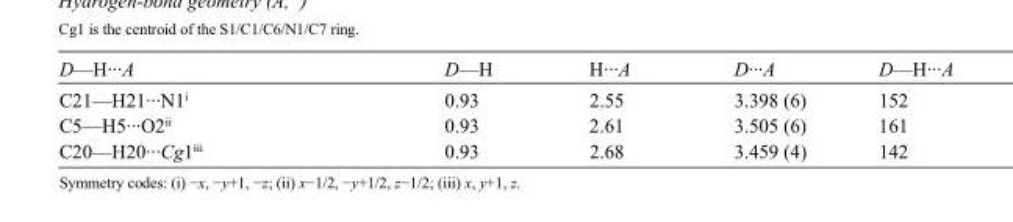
<table><tbody><tr><td>D—H···A</td><td>D—H</td><td>H···A</td><td>D···A</td><td>D—H···A</td></tr><tr><td>C21—H21···N1<sup>i</sup></td><td>0.93</td><td>2.55</td><td>3.398 (6)</td><td>152</td></tr><tr><td>C5—H5···O2<sup>ii</sup></td><td>0.93</td><td>2.61</td><td>3.505 (6)</td><td>161</td></tr><tr><td>C20—H20···Cg1<sup>iii</sup></td><td>0.93</td><td>2.68</td><td>3.459 (4)</td><td>142</td></tr></tbody></table>